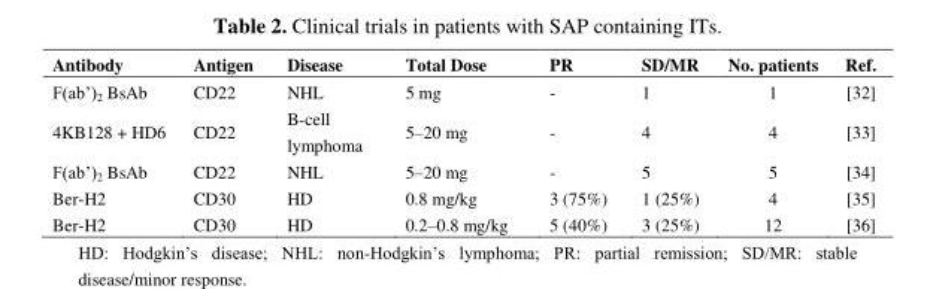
<table><thead><tr><td>Antibody</td><td>Antigen</td><td>Disease</td><td>Total Dose</td><td>PR</td><td>SD/MR</td><td>No. patients</td><td>Ref.</td></tr></thead><tbody><tr><td>F(ab’)<sub>2</sub> BsAb</td><td>CD22</td><td>NHL</td><td>5 mg</td><td>-</td><td>1</td><td>1</td><td>[32]</td></tr><tr><td>4KB128 + HD6</td><td>CD22</td><td>B-cell lymphoma</td><td>5–20 mg</td><td>-</td><td>4</td><td>4</td><td>[33]</td></tr><tr><td>F(ab’)<sub>2</sub> BsAb</td><td>CD22</td><td>NHL</td><td>5–20 mg</td><td>-</td><td>5</td><td>5</td><td>[34]</td></tr><tr><td>Ber-H2</td><td>CD30</td><td>HD</td><td>0.8 mg/kg</td><td>3 (75%)</td><td>1 (25%)</td><td>4</td><td>[35]</td></tr><tr><td>Ber-H2</td><td>CD30</td><td>HD</td><td>0.2–0.8 mg/kg</td><td>5 (40%)</td><td>3 (25%)</td><td>12</td><td>[36]</td></tr></tbody></table>